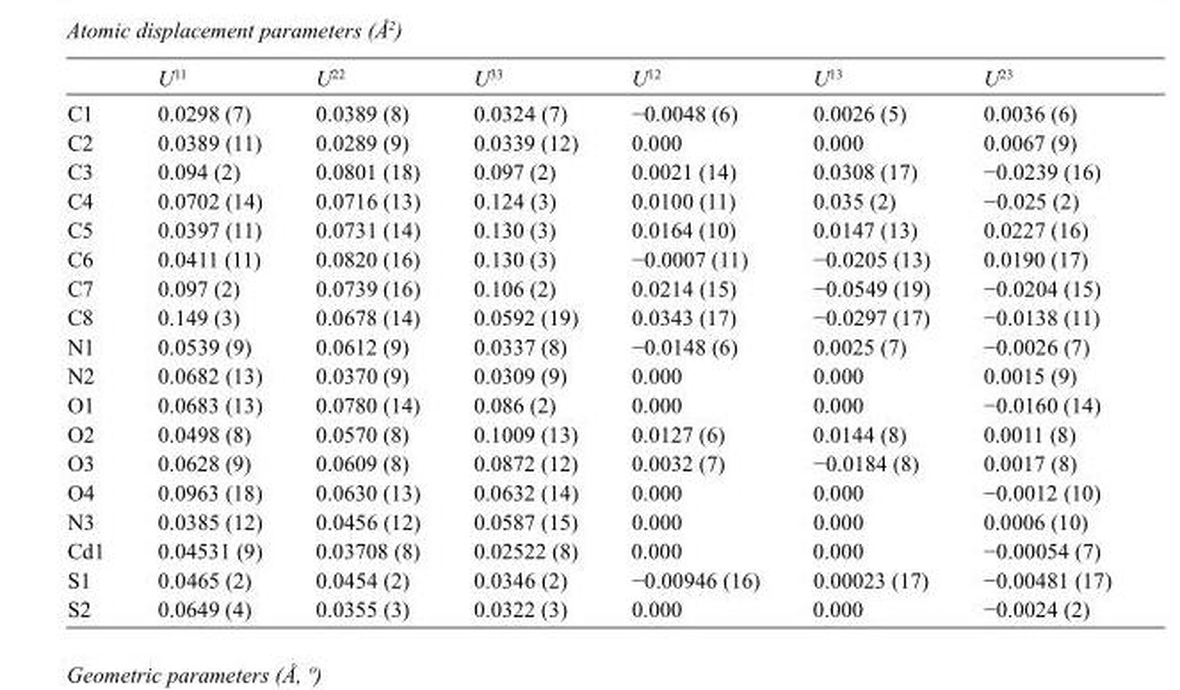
<table><thead><tr><td></td><td>U<sup>11</sup></td><td>U<sup>22</sup></td><td>U<sup>33</sup></td><td>U<sup>12</sup></td><td>U<sup>13</sup></td><td>U<sup>23</sup></td></tr></thead><tbody><tr><td>C1</td><td>0.0298 (7)</td><td>0.0389 (8)</td><td>0.0324 (7)</td><td>−0.0048 (6)</td><td>0.0026 (5)</td><td>0.0036 (6)</td></tr><tr><td>C2</td><td>0.0389 (11)</td><td>0.0289 (9)</td><td>0.0339 (12)</td><td>0.000</td><td>0.000</td><td>0.0067 (9)</td></tr><tr><td>C3</td><td>0.094 (2)</td><td>0.0801 (18)</td><td>0.097 (2)</td><td>0.0021 (14)</td><td>0.0308 (17)</td><td>−0.0239 (16)</td></tr><tr><td>C4</td><td>0.0702 (14)</td><td>0.0716 (13)</td><td>0.124 (3)</td><td>0.0100 (11)</td><td>0.035 (2)</td><td>−0.025 (2)</td></tr><tr><td>C5</td><td>0.0397 (11)</td><td>0.0731 (14)</td><td>0.130 (3)</td><td>0.0164 (10)</td><td>0.0147 (13)</td><td>0.0227 (16)</td></tr><tr><td>C6</td><td>0.0411 (11)</td><td>0.0820 (16)</td><td>0.130 (3)</td><td>−0.0007 (11)</td><td>−0.0205 (13)</td><td>0.0190 (17)</td></tr><tr><td>C7</td><td>0.097 (2)</td><td>0.0739 (16)</td><td>0.106 (2)</td><td>0.0214 (15)</td><td>−0.0549 (19)</td><td>−0.0204 (15)</td></tr><tr><td>C8</td><td>0.149 (3)</td><td>0.0678 (14)</td><td>0.0592 (19)</td><td>0.0343 (17)</td><td>−0.0297 (17)</td><td>−0.0138 (11)</td></tr><tr><td>N1</td><td>0.0539 (9)</td><td>0.0612 (9)</td><td>0.0337 (8)</td><td>−0.0148 (6)</td><td>0.0025 (7)</td><td>−0.0026 (7)</td></tr><tr><td>N2</td><td>0.0682 (13)</td><td>0.0370 (9)</td><td>0.0309 (9)</td><td>0.000</td><td>0.000</td><td>0.0015 (9)</td></tr><tr><td>O1</td><td>0.0683 (13)</td><td>0.0780 (14)</td><td>0.086 (2)</td><td>0.000</td><td>0.000</td><td>−0.0160 (14)</td></tr><tr><td>O2</td><td>0.0498 (8)</td><td>0.0570 (8)</td><td>0.1009 (13)</td><td>0.0127 (6)</td><td>0.0144 (8)</td><td>0.0011 (8)</td></tr><tr><td>O3</td><td>0.0628 (9)</td><td>0.0609 (8)</td><td>0.0872 (12)</td><td>0.0032 (7)</td><td>−0.0184 (8)</td><td>0.0017 (8)</td></tr><tr><td>O4</td><td>0.0963 (18)</td><td>0.0630 (13)</td><td>0.0632 (14)</td><td>0.000</td><td>0.000</td><td>−0.0012 (10)</td></tr><tr><td>N3</td><td>0.0385 (12)</td><td>0.0456 (12)</td><td>0.0587 (15)</td><td>0.000</td><td>0.000</td><td>0.0006 (10)</td></tr><tr><td>Cd1</td><td>0.04531 (9)</td><td>0.03708 (8)</td><td>0.02522 (8)</td><td>0.000</td><td>0.000</td><td>−0.00054 (7)</td></tr><tr><td>S1</td><td>0.0465 (2)</td><td>0.0454 (2)</td><td>0.0346 (2)</td><td>−0.00946 (16)</td><td>0.00023 (17)</td><td>−0.00481 (17)</td></tr><tr><td>S2</td><td>0.0649 (4)</td><td>0.0355 (3)</td><td>0.0322 (3)</td><td>0.000</td><td>0.000</td><td>−0.0024 (2)</td></tr></tbody></table>